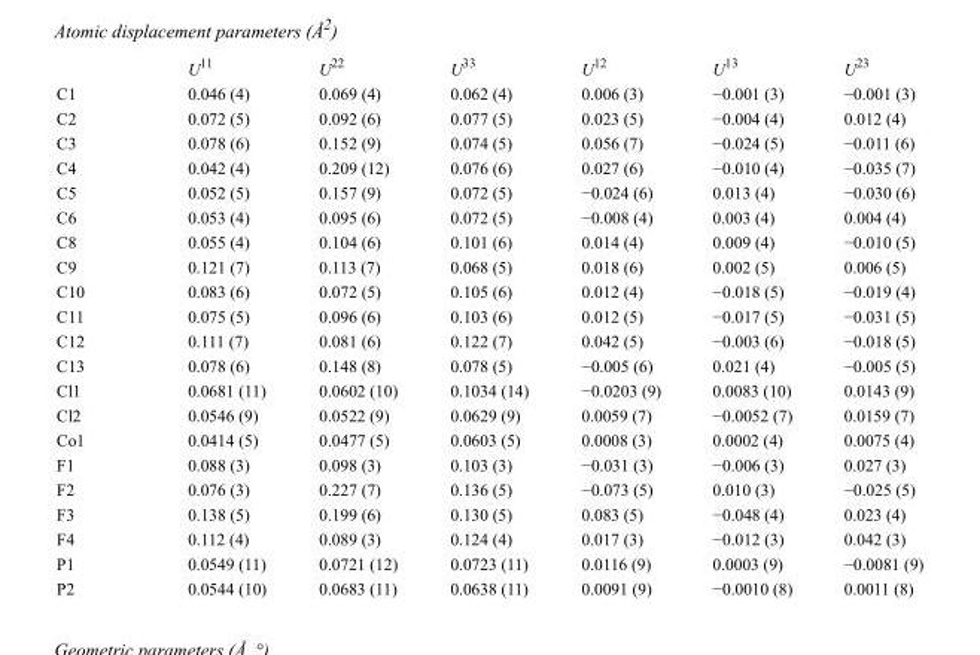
<table><thead><tr><td></td><td>U<sup>11</sup></td><td>U<sup>22</sup></td><td>U<sup>33</sup></td><td>U<sup>12</sup></td><td>U<sup>13</sup></td><td>U<sup>23</sup></td></tr></thead><tbody><tr><td>C1</td><td>0.046 (4)</td><td>0.069 (4)</td><td>0.062 (4)</td><td>0.006 (3)</td><td>−0.001 (3)</td><td>−0.001 (3)</td></tr><tr><td>C2</td><td>0.072 (5)</td><td>0.092 (6)</td><td>0.077 (5)</td><td>0.023 (5)</td><td>−0.004 (4)</td><td>0.012 (4)</td></tr><tr><td>C3</td><td>0.078 (6)</td><td>0.152 (9)</td><td>0.074 (5)</td><td>0.056 (7)</td><td>−0.024 (5)</td><td>−0.011 (6)</td></tr><tr><td>C4</td><td>0.042 (4)</td><td>0.209 (12)</td><td>0.076 (6)</td><td>0.027 (6)</td><td>−0.010 (4)</td><td>−0.035 (7)</td></tr><tr><td>C5</td><td>0.052 (5)</td><td>0.157 (9)</td><td>0.072 (5)</td><td>−0.024 (6)</td><td>0.013 (4)</td><td>−0.030 (6)</td></tr><tr><td>C6</td><td>0.053 (4)</td><td>0.095 (6)</td><td>0.072 (5)</td><td>−0.008 (4)</td><td>0.003 (4)</td><td>0.004 (4)</td></tr><tr><td>C8</td><td>0.055 (4)</td><td>0.104 (6)</td><td>0.101 (6)</td><td>0.014 (4)</td><td>0.009 (4)</td><td>−0.010 (5)</td></tr><tr><td>C9</td><td>0.121 (7)</td><td>0.113 (7)</td><td>0.068 (5)</td><td>0.018 (6)</td><td>0.002 (5)</td><td>0.006 (5)</td></tr><tr><td>C10</td><td>0.083 (6)</td><td>0.072 (5)</td><td>0.105 (6)</td><td>0.012 (4)</td><td>−0.018 (5)</td><td>−0.019 (4)</td></tr><tr><td>C11</td><td>0.075 (5)</td><td>0.096 (6)</td><td>0.103 (6)</td><td>0.012 (5)</td><td>−0.017 (5)</td><td>−0.031 (5)</td></tr><tr><td>C12</td><td>0.111 (7)</td><td>0.081 (6)</td><td>0.122 (7)</td><td>0.042 (5)</td><td>−0.003 (6)</td><td>−0.018 (5)</td></tr><tr><td>C13</td><td>0.078 (6)</td><td>0.148 (8)</td><td>0.078 (5)</td><td>−0.005 (6)</td><td>0.021 (4)</td><td>−0.005 (5)</td></tr><tr><td>Cl1</td><td>0.0681 (11)</td><td>0.0602 (10)</td><td>0.1034 (14)</td><td>−0.0203 (9)</td><td>0.0083 (10)</td><td>0.0143 (9)</td></tr><tr><td>Cl2</td><td>0.0546 (9)</td><td>0.0522 (9)</td><td>0.0629 (9)</td><td>0.0059 (7)</td><td>−0.0052 (7)</td><td>0.0159 (7)</td></tr><tr><td>Co1</td><td>0.0414 (5)</td><td>0.0477 (5)</td><td>0.0603 (5)</td><td>0.0008 (3)</td><td>0.0002 (4)</td><td>0.0075 (4)</td></tr><tr><td>F1</td><td>0.088 (3)</td><td>0.098 (3)</td><td>0.103 (3)</td><td>−0.031 (3)</td><td>−0.006 (3)</td><td>0.027 (3)</td></tr><tr><td>F2</td><td>0.076 (3)</td><td>0.227 (7)</td><td>0.136 (5)</td><td>−0.073 (5)</td><td>0.010 (3)</td><td>−0.025 (5)</td></tr><tr><td>F3</td><td>0.138 (5)</td><td>0.199 (6)</td><td>0.130 (5)</td><td>0.083 (5)</td><td>−0.048 (4)</td><td>0.023 (4)</td></tr><tr><td>F4</td><td>0.112 (4)</td><td>0.089 (3)</td><td>0.124 (4)</td><td>0.017 (3)</td><td>−0.012 (3)</td><td>0.042 (3)</td></tr><tr><td>P1</td><td>0.0549 (11)</td><td>0.0721 (12)</td><td>0.0723 (11)</td><td>0.0116 (9)</td><td>0.0003 (9)</td><td>−0.0081 (9)</td></tr><tr><td>P2</td><td>0.0544 (10)</td><td>0.0683 (11)</td><td>0.0638 (11)</td><td>0.0091 (9)</td><td>−0.0010 (8)</td><td>0.0011 (8)</td></tr></tbody></table>